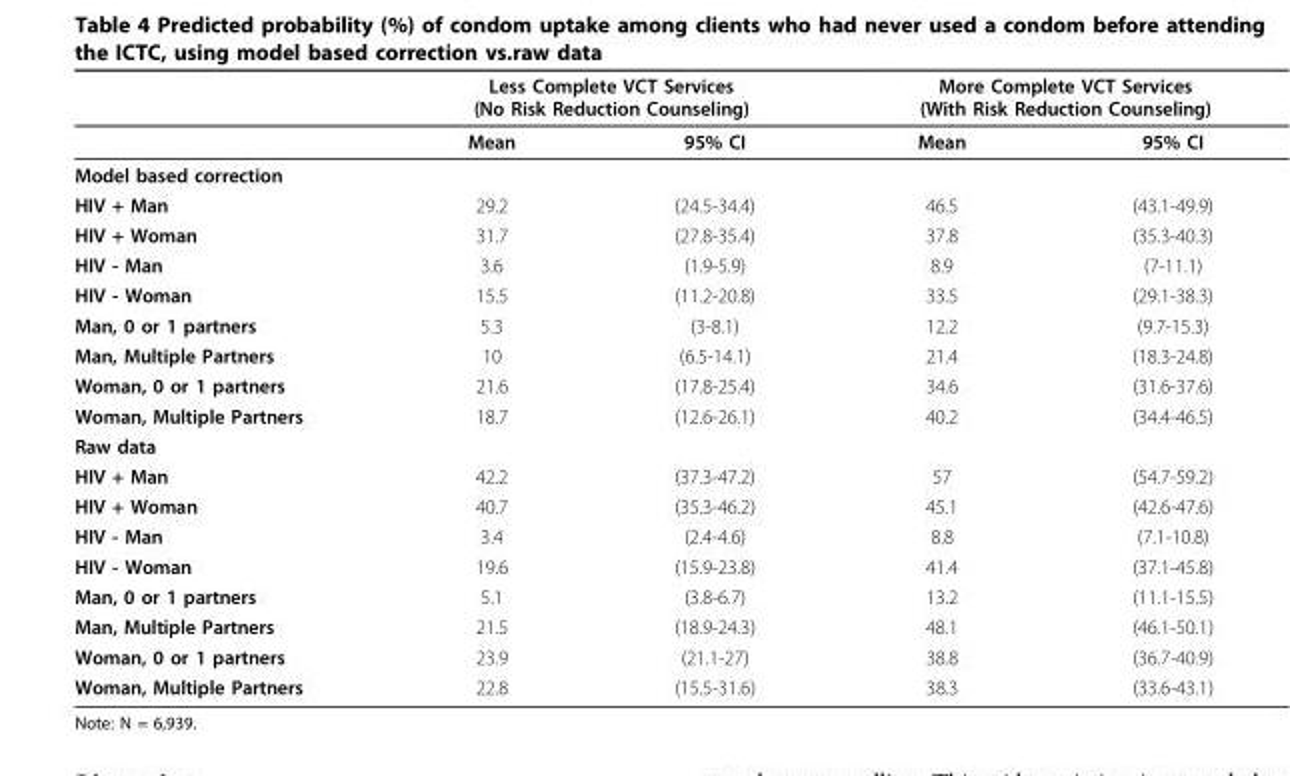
<table><thead><tr><td rowspan="2"></td><td colspan="2">Less Complete VCT Services (No Risk Reduction Counseling)</td><td colspan="2">More Complete VCT Services (With Risk Reduction Counseling)</td></tr><tr><td>Mean</td><td>95% CI</td><td>Mean</td><td>95% CI</td></tr></thead><tbody><tr><td colspan="5">Model based correction</td></tr><tr><td>HIV + Man</td><td>29.2</td><td>(24.5-34.4)</td><td>46.5</td><td>(43.1-49.9)</td></tr><tr><td>HIV + Woman</td><td>31.7</td><td>(27.8-35.4)</td><td>37.8</td><td>(35.3-40.3)</td></tr><tr><td>HIV - Man</td><td>3.6</td><td>(1.9-5.9)</td><td>8.9</td><td>(7-11.1)</td></tr><tr><td>HIV - Woman</td><td>15.5</td><td>(11.2-20.8)</td><td>33.5</td><td>(29.1-38.3)</td></tr><tr><td>Man, 0 or 1 partners</td><td>5.3</td><td>(3-8.1)</td><td>12.2</td><td>(9.7-15.3)</td></tr><tr><td>Man, Multiple Partners</td><td>10</td><td>(6.5-14.1)</td><td>21.4</td><td>(18.3-24.8)</td></tr><tr><td>Woman, 0 or 1 partners</td><td>21.6</td><td>(17.8-25.4)</td><td>34.6</td><td>(31.6-37.6)</td></tr><tr><td>Woman, Multiple Partners</td><td>18.7</td><td>(12.6-26.1)</td><td>40.2</td><td>(34.4-46.5)</td></tr><tr><td colspan="5">Raw data</td></tr><tr><td>HIV + Man</td><td>42.2</td><td>(37.3-47.2)</td><td>57</td><td>(54.7-59.2)</td></tr><tr><td>HIV + Woman</td><td>40.7</td><td>(35.3-46.2)</td><td>45.1</td><td>(42.6-47.6)</td></tr><tr><td>HIV - Man</td><td>3.4</td><td>(2.4-4.6)</td><td>8.8</td><td>(7.1-10.8)</td></tr><tr><td>HIV - Woman</td><td>19.6</td><td>(15.9-23.8)</td><td>41.4</td><td>(37.1-45.8)</td></tr><tr><td>Man, 0 or 1 partners</td><td>5.1</td><td>(3.8-6.7)</td><td>13.2</td><td>(11.1-15.5)</td></tr><tr><td>Man, Multiple Partners</td><td>21.5</td><td>(18.9-24.3)</td><td>48.1</td><td>(46.1-50.1)</td></tr><tr><td>Woman, 0 or 1 partners</td><td>23.9</td><td>(21.1-27)</td><td>38.8</td><td>(36.7-40.9)</td></tr><tr><td>Woman, Multiple Partners</td><td>22.8</td><td>(15.5-31.6)</td><td>38.3</td><td>(33.6-43.1)</td></tr></tbody></table>